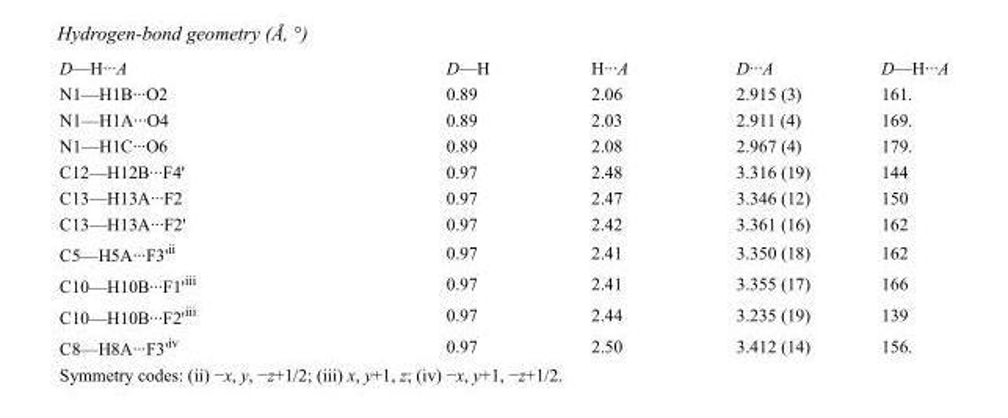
<table><tbody><tr><td>D—H···A</td><td>D—H</td><td>H···A</td><td>D···A</td><td>D—H···A</td></tr><tr><td>N1—H1B···O2</td><td>0.89</td><td>2.06</td><td>2.915 (3)</td><td>161.</td></tr><tr><td>N1—H1A···O4</td><td>0.89</td><td>2.03</td><td>2.911 (4)</td><td>169.</td></tr><tr><td>N1—H1C···O6</td><td>0.89</td><td>2.08</td><td>2.967 (4)</td><td>179.</td></tr><tr><td>C12—H12B···F4&#x27;</td><td>0.97</td><td>2.48</td><td>3.316 (19)</td><td>144</td></tr><tr><td>C13—H13A···F2</td><td>0.97</td><td>2.47</td><td>3.346 (12)</td><td>150</td></tr><tr><td>C13—H13A···F2&#x27;</td><td>0.97</td><td>2.42</td><td>3.361 (16)</td><td>162</td></tr><tr><td>C5—H5A···F3&#x27;<sup>ii</sup></td><td>0.97</td><td>2.41</td><td>3.350 (18)</td><td>162</td></tr><tr><td>C10—H10B···F1&#x27;<sup>iii</sup></td><td>0.97</td><td>2.41</td><td>3.355 (17)</td><td>166</td></tr><tr><td>C10—H10B···F2&#x27;<sup>iii</sup></td><td>0.97</td><td>2.44</td><td>3.235 (19)</td><td>139</td></tr><tr><td>C8—H8A···F3&#x27;<sup>iv</sup></td><td>0.97</td><td>2.50</td><td>3.412 (14)</td><td>156.</td></tr></tbody></table>